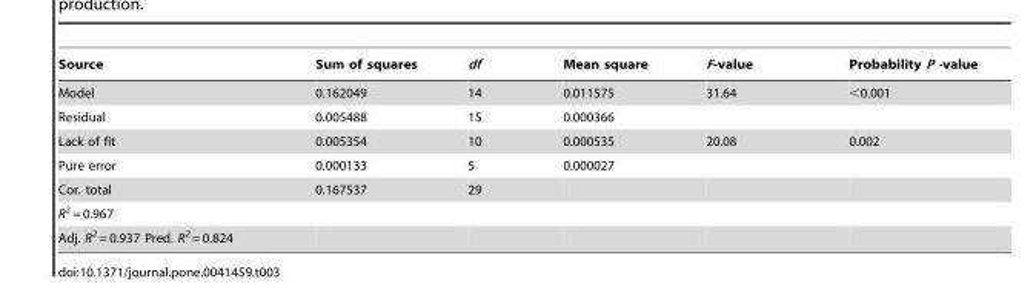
<table><thead><tr><td>Source</td><td>Sum of squares</td><td>df</td><td>Mean square</td><td>F-value</td><td>Probability P -value</td></tr></thead><tbody><tr><td>Model</td><td>0.162049</td><td>14</td><td>0.011575</td><td>31.64</td><td>&lt;0.001</td></tr><tr><td>Residual</td><td>0.005488</td><td>15</td><td>0.000366</td><td></td><td></td></tr><tr><td>Lack of fit</td><td>0.005354</td><td>10</td><td>0.000535</td><td>20.08</td><td>0.002</td></tr><tr><td>Pure error</td><td>0.000133</td><td>5</td><td>0.000027</td><td></td><td></td></tr><tr><td>Cor. total</td><td>0.167537</td><td>29</td><td></td><td></td><td></td></tr><tr><td colspan="6">R<sup>2</sup> = 0.967</td></tr><tr><td>Adj. R<sup>2</sup> = 0.937 Pred. R<sup>2</sup> = 0.824</td><td></td><td></td><td></td><td></td><td></td></tr></tbody></table>